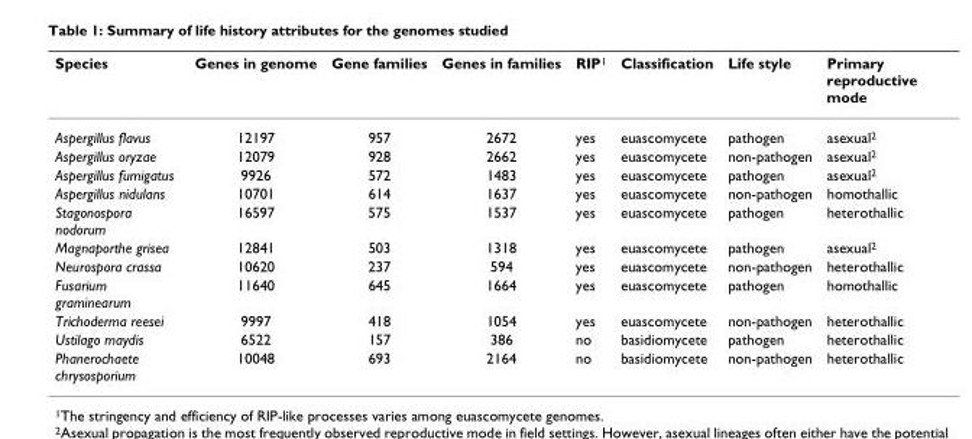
<table><thead><tr><td>Species</td><td>Genes in genome</td><td>Gene families</td><td>Genes in families</td><td>RIP<sup>1</sup></td><td>Classification</td><td>Life style</td><td>Primary reproductive mode</td></tr></thead><tbody><tr><td>Aspergillus flavus</td><td>12197</td><td>957</td><td>2672</td><td>yes</td><td>euascomycete</td><td>pathogen</td><td>asexual<sup>2</sup></td></tr><tr><td>Aspergillus oryzae</td><td>12079</td><td>928</td><td>2662</td><td>yes</td><td>euascomycete</td><td>non-pathogen</td><td>asexual<sup>2</sup></td></tr><tr><td>Aspergillus fumigatus</td><td>9926</td><td>572</td><td>1483</td><td>yes</td><td>euascomycete</td><td>pathogen</td><td>asexual<sup>2</sup></td></tr><tr><td>Aspergillus nidulans</td><td>10701</td><td>614</td><td>1637</td><td>yes</td><td>euascomycete</td><td>non-pathogen</td><td>homothallic</td></tr><tr><td>Stagonospora nodorum</td><td>16597</td><td>575</td><td>1537</td><td>yes</td><td>euascomycete</td><td>pathogen</td><td>heterothallic</td></tr><tr><td>Magnaporthe grisea</td><td>12841</td><td>503</td><td>1318</td><td>yes</td><td>euascomycete</td><td>pathogen</td><td>asexual<sup>2</sup></td></tr><tr><td>Neurospora crassa</td><td>10620</td><td>237</td><td>594</td><td>yes</td><td>euascomycete</td><td>non-pathogen</td><td>heterothallic</td></tr><tr><td>Fusarium graminearum</td><td>11640</td><td>645</td><td>1664</td><td>yes</td><td>euascomycete</td><td>pathogen</td><td>homothallic</td></tr><tr><td>Trichoderma reesei</td><td>9997</td><td>418</td><td>1054</td><td>yes</td><td>euascomycete</td><td>non-pathogen</td><td>heterothallic</td></tr><tr><td>Ustilago maydis</td><td>6522</td><td>157</td><td>386</td><td>no</td><td>basidiomycete</td><td>pathogen</td><td>heterothallic</td></tr><tr><td>Phanerochaete chrysosporium</td><td>10048</td><td>693</td><td>2164</td><td>no</td><td>basidiomycete</td><td>non-pathogen</td><td>heterothallic</td></tr></tbody></table>